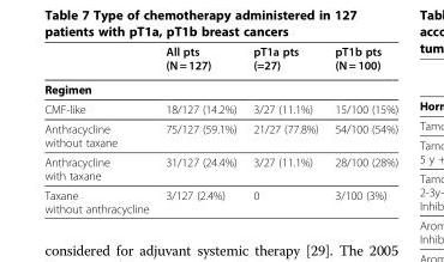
<table><thead><tr><td></td><td>All pts (N = 127)</td><td>pT1a pts (=27)</td><td>pT1b pts (N = 100)</td></tr></thead><tbody><tr><td colspan="4">Regimen</td></tr><tr><td>CMF-like</td><td>18/127 (14.2%)</td><td>3/27 (11.1%)</td><td>15/100 (15%)</td></tr><tr><td>Anthracycline without taxane</td><td>75/127 (59.1%)</td><td>21/27 (77.8%)</td><td>54/100 (54%)</td></tr><tr><td>Anthracycline with taxane</td><td>31/127 (24.4%)</td><td>3/27 (11.1%)</td><td>28/100 (28%)</td></tr><tr><td>Taxane without anthracycline</td><td>3/127 (2.4%)</td><td>0</td><td>3/100 (3%)</td></tr></tbody></table>